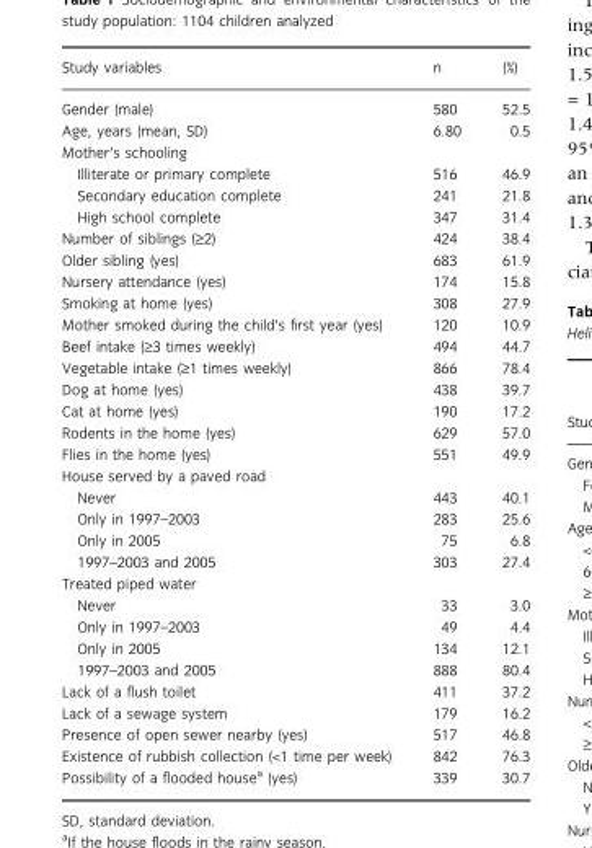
<table><thead><tr><td>Study variables</td><td>n</td><td>(%)</td></tr></thead><tbody><tr><td>Gender (male)</td><td>580</td><td>52.5</td></tr><tr><td>Age, years (mean, SD)</td><td>6.80</td><td>0.5</td></tr><tr><td colspan="3">Mother’s schooling</td></tr><tr><td>Illiterate or primary complete</td><td>516</td><td>46.9</td></tr><tr><td>Secondary education complete</td><td>241</td><td>21.8</td></tr><tr><td>High school complete</td><td>347</td><td>31.4</td></tr><tr><td>Number of siblings (‡2)</td><td>424</td><td>38.4</td></tr><tr><td>Older sibling (yes)</td><td>683</td><td>61.9</td></tr><tr><td>Nursery attendance (yes)</td><td>174</td><td>15.8</td></tr><tr><td>Smoking at home (yes)</td><td>308</td><td>27.9</td></tr><tr><td>Mother smoked during the child’s first year (yes)</td><td>120</td><td>10.9</td></tr><tr><td>Beef intake (‡3 times weekly)</td><td>494</td><td>44.7</td></tr><tr><td>Vegetable intake (‡1 times weekly)</td><td>866</td><td>78.4</td></tr><tr><td>Dog at home (yes)</td><td>438</td><td>39.7</td></tr><tr><td>Cat at home (yes)</td><td>190</td><td>17.2</td></tr><tr><td>Rodents in the home (yes)</td><td>629</td><td>57.0</td></tr><tr><td>Flies in the home (yes)</td><td>551</td><td>49.9</td></tr><tr><td colspan="3">House served by a paved road</td></tr><tr><td>Never</td><td>443</td><td>40.1</td></tr><tr><td>Only in 1997–2003</td><td>283</td><td>25.6</td></tr><tr><td>Only in 2005</td><td>75</td><td>6.8</td></tr><tr><td>1997–2003 and 2005</td><td>303</td><td>27.4</td></tr><tr><td colspan="3">Treated piped water</td></tr><tr><td>Never</td><td>33</td><td>3.0</td></tr><tr><td>Only in 1997–2003</td><td>49</td><td>4.4</td></tr><tr><td>Only in 2005</td><td>134</td><td>12.1</td></tr><tr><td>1997–2003 and 2005</td><td>888</td><td>80.4</td></tr><tr><td>Lack of a flush toilet</td><td>411</td><td>37.2</td></tr><tr><td>Lack of a sewage system</td><td>179</td><td>16.2</td></tr><tr><td>Presence of open sewer nearby (yes)</td><td>517</td><td>46.8</td></tr><tr><td>Existence of rubbish collection (&lt;1 time per week)</td><td>842</td><td>76.3</td></tr><tr><td>Possibility of a flooded house<sup>a</sup> (yes)</td><td>339</td><td>30.7</td></tr></tbody></table>